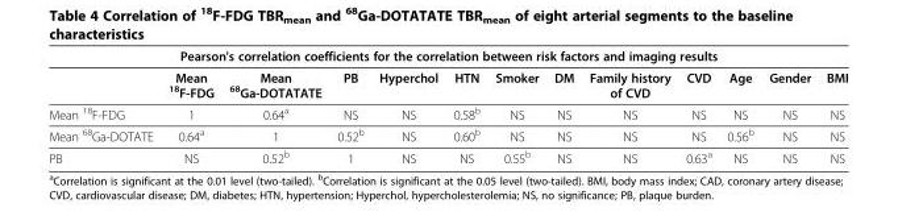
<table><thead><tr><td colspan="13">Pearson&#x27;s correlation coefficients for the correlation between risk factors and imaging results</td></tr><tr><td></td><td>Mean <sup>18</sup>F-FDG</td><td>Mean <sup>68</sup>Ga-DOTATATE</td><td>PB</td><td>Hyperchol</td><td>HTN</td><td>Smoker</td><td>DM</td><td>Family history of CVD</td><td>CVD</td><td>Age</td><td>Gender</td><td>BMI</td></tr></thead><tbody><tr><td>Mean <sup>18</sup>F-FDG</td><td>1</td><td>0.64<sup>a</sup></td><td>NS</td><td>NS</td><td>0.58<sup>b</sup></td><td>NS</td><td>NS</td><td>NS</td><td>NS</td><td>NS</td><td>NS</td><td>NS</td></tr><tr><td>Mean <sup>68</sup>Ga-DOTATE</td><td>0.64<sup>a</sup></td><td>1</td><td>0.52<sup>b</sup></td><td>NS</td><td>0.60<sup>b</sup></td><td>NS</td><td>NS</td><td>NS</td><td>NS</td><td>0.56<sup>b</sup></td><td>NS</td><td>NS</td></tr><tr><td>PB</td><td>NS</td><td>0.52<sup>b</sup></td><td>1</td><td>NS</td><td>NS</td><td>0.55<sup>b</sup></td><td>NS</td><td>NS</td><td>0.63<sup>a</sup></td><td>NS</td><td>NS</td><td>NS</td></tr></tbody></table>